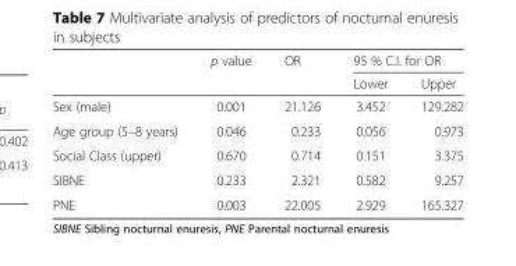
<table><thead><tr><td rowspan="2"></td><td rowspan="2">p value</td><td rowspan="2">OR</td><td colspan="2">95 % C.I. for OR</td></tr><tr><td>Lower</td><td>Upper</td></tr></thead><tbody><tr><td>Sex (male)</td><td>0.001</td><td>21.126</td><td>3.452</td><td>129.282</td></tr><tr><td>Age group (5–8 years)</td><td>0.046</td><td>0.233</td><td>0.056</td><td>0.973</td></tr><tr><td>Social Class (upper)</td><td>0.670</td><td>0.714</td><td>0.151</td><td>3.375</td></tr><tr><td>SIBNE</td><td>0.233</td><td>2.321</td><td>0.582</td><td>9.257</td></tr><tr><td>PNE</td><td>0.003</td><td>22.005</td><td>2.929</td><td>165.327</td></tr></tbody></table>